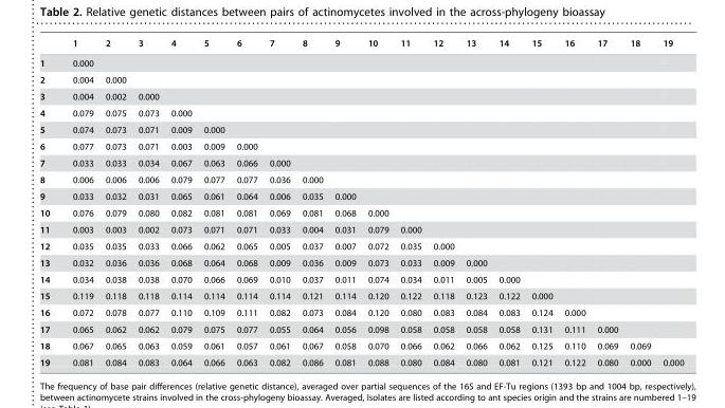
<table><thead><tr><td></td><td>1</td><td>2</td><td>3</td><td>4</td><td>5</td><td>6</td><td>7</td><td>8</td><td>9</td><td>10</td><td>11</td><td>12</td><td>13</td><td>14</td><td>15</td><td>16</td><td>17</td><td>18</td><td>19</td></tr></thead><tbody><tr><td>1</td><td>0.000</td><td></td><td></td><td></td><td></td><td></td><td></td><td></td><td></td><td></td><td></td><td></td><td></td><td></td><td></td><td></td><td></td><td></td><td></td></tr><tr><td>2</td><td>0.004</td><td>0.000</td><td></td><td></td><td></td><td></td><td></td><td></td><td></td><td></td><td></td><td></td><td></td><td></td><td></td><td></td><td></td><td></td><td></td></tr><tr><td>3</td><td>0.004</td><td>0.002</td><td>0.000</td><td></td><td></td><td></td><td></td><td></td><td></td><td></td><td></td><td></td><td></td><td></td><td></td><td></td><td></td><td></td><td></td></tr><tr><td>4</td><td>0.079</td><td>0.075</td><td>0.073</td><td>0.000</td><td></td><td></td><td></td><td></td><td></td><td></td><td></td><td></td><td></td><td></td><td></td><td></td><td></td><td></td><td></td></tr><tr><td>5</td><td>0.074</td><td>0.073</td><td>0.071</td><td>0.009</td><td>0.000</td><td></td><td></td><td></td><td></td><td></td><td></td><td></td><td></td><td></td><td></td><td></td><td></td><td></td><td></td></tr><tr><td>6</td><td>0.077</td><td>0.073</td><td>0.071</td><td>0.003</td><td>0.009</td><td>0.000</td><td></td><td></td><td></td><td></td><td></td><td></td><td></td><td></td><td></td><td></td><td></td><td></td><td></td></tr><tr><td>7</td><td>0.033</td><td>0.033</td><td>0.034</td><td>0.067</td><td>0.063</td><td>0.066</td><td>0.000</td><td></td><td></td><td></td><td></td><td></td><td></td><td></td><td></td><td></td><td></td><td></td><td></td></tr><tr><td>8</td><td>0.006</td><td>0.006</td><td>0.006</td><td>0.079</td><td>0.077</td><td>0.077</td><td>0.036</td><td>0.000</td><td></td><td></td><td></td><td></td><td></td><td></td><td></td><td></td><td></td><td></td><td></td></tr><tr><td>9</td><td>0.033</td><td>0.032</td><td>0.031</td><td>0.065</td><td>0.061</td><td>0.064</td><td>0.006</td><td>0.035</td><td>0.000</td><td></td><td></td><td></td><td></td><td></td><td></td><td></td><td></td><td></td><td></td></tr><tr><td>10</td><td>0.076</td><td>0.079</td><td>0.080</td><td>0.082</td><td>0.081</td><td>0.081</td><td>0.069</td><td>0.081</td><td>0.068</td><td>0.000</td><td></td><td></td><td></td><td></td><td></td><td></td><td></td><td></td><td></td></tr><tr><td>11</td><td>0.003</td><td>0.003</td><td>0.002</td><td>0.073</td><td>0.071</td><td>0.071</td><td>0.033</td><td>0.004</td><td>0.031</td><td>0.079</td><td>0.000</td><td></td><td></td><td></td><td></td><td></td><td></td><td></td><td></td></tr><tr><td>12</td><td>0.035</td><td>0.035</td><td>0.033</td><td>0.066</td><td>0.062</td><td>0.065</td><td>0.005</td><td>0.037</td><td>0.007</td><td>0.072</td><td>0.035</td><td>0.000</td><td></td><td></td><td></td><td></td><td></td><td></td><td></td></tr><tr><td>13</td><td>0.032</td><td>0.036</td><td>0.036</td><td>0.068</td><td>0.064</td><td>0.068</td><td>0.009</td><td>0.036</td><td>0.009</td><td>0.073</td><td>0.033</td><td>0.009</td><td>0.000</td><td></td><td></td><td></td><td></td><td></td><td></td></tr><tr><td>14</td><td>0.034</td><td>0.038</td><td>0.038</td><td>0.070</td><td>0.066</td><td>0.069</td><td>0.010</td><td>0.037</td><td>0.011</td><td>0.074</td><td>0.034</td><td>0.011</td><td>0.005</td><td>0.000</td><td></td><td></td><td></td><td></td><td></td></tr><tr><td>15</td><td>0.119</td><td>0.118</td><td>0.118</td><td>0.114</td><td>0.114</td><td>0.114</td><td>0.114</td><td>0.121</td><td>0.114</td><td>0.120</td><td>0.122</td><td>0.118</td><td>0.123</td><td>0.122</td><td>0.000</td><td></td><td></td><td></td><td></td></tr><tr><td>16</td><td>0.072</td><td>0.078</td><td>0.077</td><td>0.110</td><td>0.109</td><td>0.111</td><td>0.082</td><td>0.073</td><td>0.084</td><td>0.120</td><td>0.080</td><td>0.083</td><td>0.084</td><td>0.083</td><td>0.124</td><td>0.000</td><td></td><td></td><td></td></tr><tr><td>17</td><td>0.065</td><td>0.062</td><td>0.062</td><td>0.079</td><td>0.075</td><td>0.077</td><td>0.055</td><td>0.064</td><td>0.056</td><td>0.098</td><td>0.058</td><td>0.058</td><td>0.058</td><td>0.058</td><td>0.131</td><td>0.111</td><td>0.000</td><td></td><td></td></tr><tr><td>18</td><td>0.067</td><td>0.065</td><td>0.063</td><td>0.059</td><td>0.061</td><td>0.057</td><td>0.061</td><td>0.067</td><td>0.058</td><td>0.070</td><td>0.066</td><td>0.062</td><td>0.066</td><td>0.062</td><td>0.125</td><td>0.110</td><td>0.069</td><td>0.069</td><td></td></tr><tr><td>19</td><td>0.081</td><td>0.084</td><td>0.083</td><td>0.064</td><td>0.066</td><td>0.063</td><td>0.082</td><td>0.086</td><td>0.081</td><td>0.088</td><td>0.080</td><td>0.084</td><td>0.080</td><td>0.081</td><td>0.121</td><td>0.122</td><td>0.080</td><td>0.000</td><td>0.000</td></tr></tbody></table>